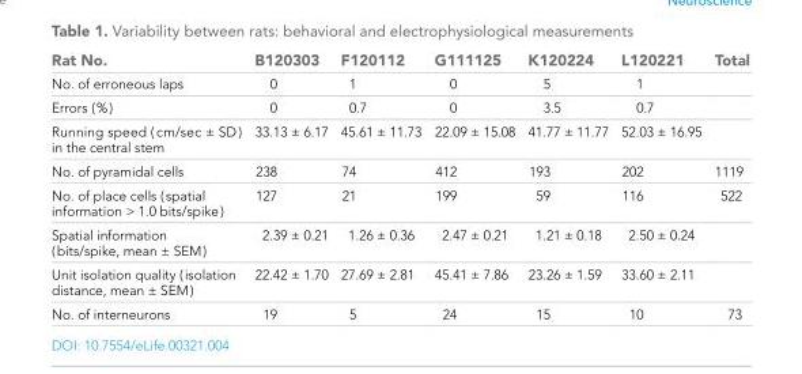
<table><thead><tr><td>Rat No.</td><td>B120303</td><td>F120112</td><td>G111125</td><td>K120224</td><td>L120221</td><td>Total</td></tr></thead><tbody><tr><td>No. of erroneous laps</td><td>0</td><td>1</td><td>0</td><td>5</td><td>1</td><td></td></tr><tr><td>Errors ( % )</td><td>0</td><td>0.7</td><td>0</td><td>3.5</td><td>0.7</td><td></td></tr><tr><td>Running speed ( cm/sec ± SD ) in the central stem</td><td>33.13 ± 6.17</td><td>45.61 ± 11.73</td><td>22.09 ± 15.08</td><td>41.77 ± 11.77</td><td>52.03 ± 16.95</td><td></td></tr><tr><td>No. of pyramidal cells</td><td>238</td><td>74</td><td>412</td><td>193</td><td>202</td><td>1119</td></tr><tr><td>No. of place cells ( spatial information &gt; 1.0 bits/spike )</td><td>127</td><td>21</td><td>199</td><td>59</td><td>116</td><td>522</td></tr><tr><td>Spatial information ( bits/spike, mean ± SEM )</td><td>2.39 ± 0.21</td><td>1.26 ± 0.36</td><td>2.47 ± 0.21</td><td>1.21 ± 0.18</td><td>2.50 ± 0.24</td><td></td></tr><tr><td>Unit isolation quality ( isolation distance, mean ± SEM )</td><td>22.42 ± 1.70</td><td>27.69 ± 2.81</td><td>45.41 ± 7.86</td><td>23.26 ± 1.59</td><td>33.60 ± 2.11</td><td></td></tr><tr><td>No. of interneurons</td><td>19</td><td>5</td><td>24</td><td>15</td><td>10</td><td>73</td></tr></tbody></table>